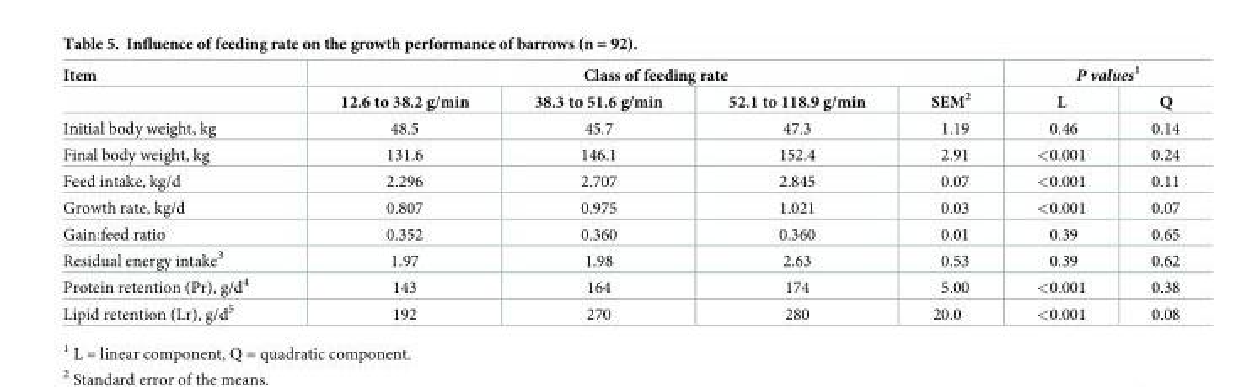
<table><thead><tr><td rowspan="2">Item</td><td colspan="4">Class of feeding rate</td><td colspan="2">P values<sup>1</sup></td></tr><tr><td>12.6 to 38.2 g/min</td><td>38.3 to 51.6 g/min</td><td>52.1 to 118.9 g/min</td><td>SEM<sup>2</sup></td><td>L</td><td>Q</td></tr></thead><tbody><tr><td>Initial body weight, kg</td><td>48.5</td><td>45.7</td><td>47.3</td><td>1.19</td><td>0.46</td><td>0.14</td></tr><tr><td>Final body weight, kg</td><td>131.6</td><td>146.1</td><td>152.4</td><td>2.91</td><td>&lt;0.001</td><td>0.24</td></tr><tr><td>Feed intake, kg/d</td><td>2.296</td><td>2.707</td><td>2.845</td><td>0.07</td><td>&lt;0.001</td><td>0.11</td></tr><tr><td>Growth rate, kg/d</td><td>0.807</td><td>0.975</td><td>1.021</td><td>0.03</td><td>&lt;0.001</td><td>0.07</td></tr><tr><td>Gain:feed ratio</td><td>0.352</td><td>0.360</td><td>0.360</td><td>0.01</td><td>0.39</td><td>0.65</td></tr><tr><td>Residual energy intake<sup>3</sup></td><td>1.97</td><td>1.98</td><td>2.63</td><td>0.53</td><td>0.39</td><td>0.62</td></tr><tr><td>Protein retention (Pr), g/d<sup>4</sup></td><td>143</td><td>164</td><td>174</td><td>5.00</td><td>&lt;0.001</td><td>0.38</td></tr><tr><td>Lipid retention (Lr), g/d<sup>5</sup></td><td>192</td><td>270</td><td>280</td><td>20.0</td><td>&lt;0.001</td><td>0.08</td></tr></tbody></table>